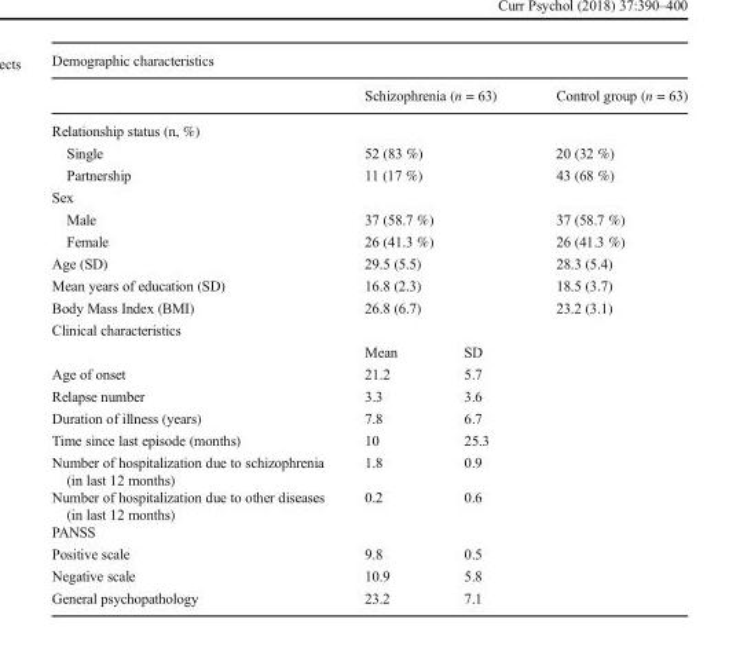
<table><thead><tr><td colspan="4">Demographic characteristics</td></tr><tr><td></td><td colspan="2">Schizophrenia (n = 63)</td><td>Control group (n = 63)</td></tr></thead><tbody><tr><td colspan="4">Relationship status (n, %)</td></tr><tr><td>Single</td><td colspan="2">52 (83 %)</td><td>20 (32 %)</td></tr><tr><td>Partnership</td><td colspan="2">11 (17 %)</td><td>43 (68 %)</td></tr><tr><td colspan="4">Sex</td></tr><tr><td>Male</td><td colspan="2">37 (58.7 %)</td><td>37 (58.7 %)</td></tr><tr><td>Female</td><td colspan="2">26 (41.3 %)</td><td>26 (41.3 %)</td></tr><tr><td>Age (SD)</td><td colspan="2">29.5 (5.5)</td><td>28.3 (5.4)</td></tr><tr><td>Mean years of education (SD)</td><td colspan="2">16.8 (2.3)</td><td>18.5 (3.7)</td></tr><tr><td>Body Mass Index (BMI)</td><td colspan="2">26.8 (6.7)</td><td>23.2 (3.1)</td></tr><tr><td colspan="4">Clinical characteristics</td></tr><tr><td></td><td>Mean</td><td>SD</td><td></td></tr><tr><td>Age of onset</td><td>21.2</td><td>5.7</td><td></td></tr><tr><td>Relapse number</td><td>3.3</td><td>3.6</td><td></td></tr><tr><td>Duration of illness (years)</td><td>7.8</td><td>6.7</td><td></td></tr><tr><td>Time since last episode (months)</td><td>10</td><td>25.3</td><td></td></tr><tr><td>Number of hospitalization due to schizophrenia (in last 12 months)</td><td>1.8</td><td>0.9</td><td></td></tr><tr><td>Number of hospitalization due to other diseases (in last 12 months)</td><td>0.2</td><td>0.6</td><td></td></tr><tr><td colspan="4">PANSS</td></tr><tr><td>Positive scale</td><td>9.8</td><td>0.5</td><td></td></tr><tr><td>Negative scale</td><td>10.9</td><td>5.8</td><td></td></tr><tr><td>General psychopathology</td><td>23.2</td><td>7.1</td><td></td></tr></tbody></table>